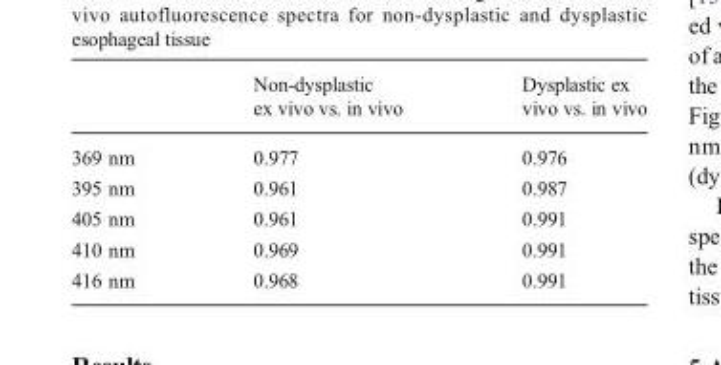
<table><thead><tr><td></td><td>Non-dysplastic ex vivo vs. in vivo</td><td>Dysplastic ex vivo vs. in vivo</td></tr></thead><tbody><tr><td>369 nm</td><td>0.977</td><td>0.976</td></tr><tr><td>395 nm</td><td>0.961</td><td>0.987</td></tr><tr><td>405 nm</td><td>0.961</td><td>0.991</td></tr><tr><td>410 nm</td><td>0.969</td><td>0.991</td></tr><tr><td>416 nm</td><td>0.968</td><td>0.991</td></tr></tbody></table>